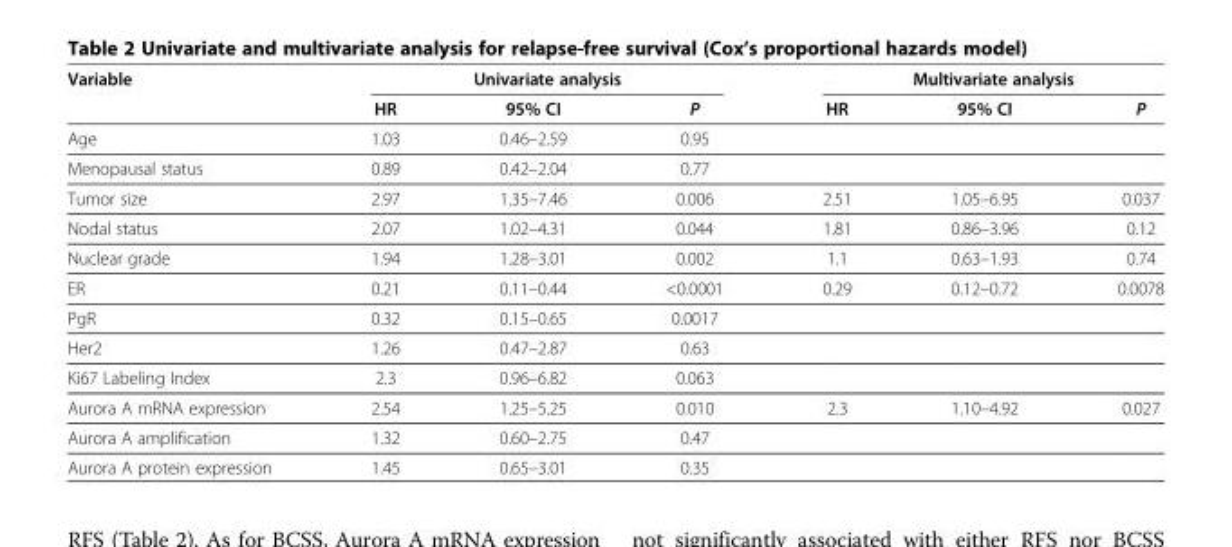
<table><thead><tr><td rowspan="2">Variable</td><td colspan="3">Univariate analysis</td><td colspan="3">Multivariate analysis</td></tr><tr><td>HR</td><td>95% CI</td><td>P</td><td>HR</td><td>95% CI</td><td>P</td></tr></thead><tbody><tr><td>Age</td><td>1.03</td><td>0.46–2.59</td><td>0.95</td><td></td><td></td><td></td></tr><tr><td>Menopausal status</td><td>0.89</td><td>0.42–2.04</td><td>0.77</td><td></td><td></td><td></td></tr><tr><td>Tumor size</td><td>2.97</td><td>1.35–7.46</td><td>0.006</td><td>2.51</td><td>1.05–6.95</td><td>0.037</td></tr><tr><td>Nodal status</td><td>2.07</td><td>1.02–4.31</td><td>0.044</td><td>1.81</td><td>0.86–3.96</td><td>0.12</td></tr><tr><td>Nuclear grade</td><td>1.94</td><td>1.28–3.01</td><td>0.002</td><td>1.1</td><td>0.63–1.93</td><td>0.74</td></tr><tr><td>ER</td><td>0.21</td><td>0.11–0.44</td><td>&lt;0.0001</td><td>0.29</td><td>0.12–0.72</td><td>0.0078</td></tr><tr><td>PgR</td><td>0.32</td><td>0.15–0.65</td><td>0.0017</td><td></td><td></td><td></td></tr><tr><td>Her2</td><td>1.26</td><td>0.47–2.87</td><td>0.63</td><td></td><td></td><td></td></tr><tr><td>Ki67 Labeling Index</td><td>2.3</td><td>0.96–6.82</td><td>0.063</td><td></td><td></td><td></td></tr><tr><td>Aurora A mRNA expression</td><td>2.54</td><td>1.25–5.25</td><td>0.010</td><td>2.3</td><td>1.10–4.92</td><td>0.027</td></tr><tr><td>Aurora A amplification</td><td>1.32</td><td>0.60–2.75</td><td>0.47</td><td></td><td></td><td></td></tr><tr><td>Aurora A protein expression</td><td>1.45</td><td>0.65–3.01</td><td>0.35</td><td></td><td></td><td></td></tr></tbody></table>